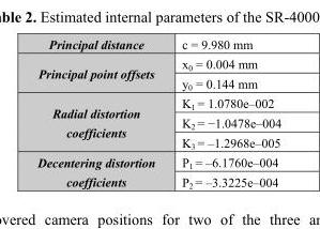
<table><tbody><tr><td>Principal distance</td><td>c = 9.980 mm</td></tr><tr><td rowspan="2">Principal point offsets</td><td>x<sub>0</sub> = 0.004 mm</td></tr><tr><td>y<sub>0</sub> = 0.144 mm</td></tr><tr><td rowspan="3">Radial distortion coefficients</td><td>K<sub>1</sub> = 1.0780e–002</td></tr><tr><td>K<sub>2</sub> = −1.0478e–004</td></tr><tr><td>K<sub>3</sub> = –1.2968e–005</td></tr><tr><td rowspan="2">Decentering distortion coefficients</td><td>P<sub>1</sub> = –6.1760e–004</td></tr><tr><td>P<sub>2</sub> = –3.3225e–004</td></tr></tbody></table>